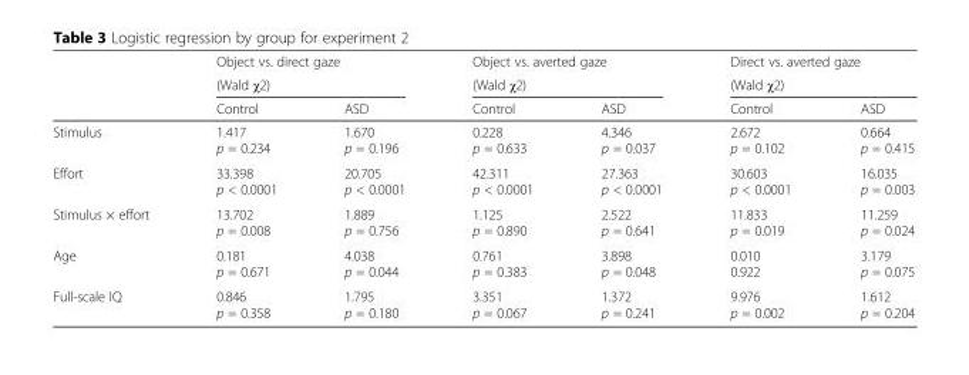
<table><thead><tr><td rowspan="3"></td><td rowspan="2" colspan="2">Object vs. direct gaze (Wald χ2)</td><td rowspan="2" colspan="2">Object vs. averted gaze (Wald χ2)</td><td rowspan="2" colspan="2">Direct vs. averted gaze (Wald χ2)</td></tr><tr></tr><tr><td>Control</td><td>ASD</td><td>Control</td><td>ASD</td><td>Control</td><td>ASD</td></tr></thead><tbody><tr><td>Stimulus</td><td>1.417 p = 0.234</td><td>1.670 p = 0.196</td><td>0.228 p = 0.633</td><td>4.346 p = 0.037</td><td>2.672 p = 0.102</td><td>0.664 p = 0.415</td></tr><tr><td>Effort</td><td>33.398 p &lt; 0.0001</td><td>20.705 p &lt; 0.0001</td><td>42.311 p &lt; 0.0001</td><td>27.363 p &lt; 0.0001</td><td>30.603 p &lt; 0.0001</td><td>16.035 p = 0.003</td></tr><tr><td>Stimulus × effort</td><td>13.702 p = 0.008</td><td>1.889 p = 0.756</td><td>1.125 p = 0.890</td><td>2.522 p = 0.641</td><td>11.833 p = 0.019</td><td>11.259 p = 0.024</td></tr><tr><td>Age</td><td>0.181 p = 0.671</td><td>4.038 p = 0.044</td><td>0.761 p = 0.383</td><td>3.898 p = 0.048</td><td>0.010 0.922</td><td>3.179 p = 0.075</td></tr><tr><td>Full-scale IQ</td><td>0.846 p = 0.358</td><td>1.795 p = 0.180</td><td>3.351 p = 0.067</td><td>1.372 p = 0.241</td><td>9.976 p = 0.002</td><td>1.612 p = 0.204</td></tr></tbody></table>